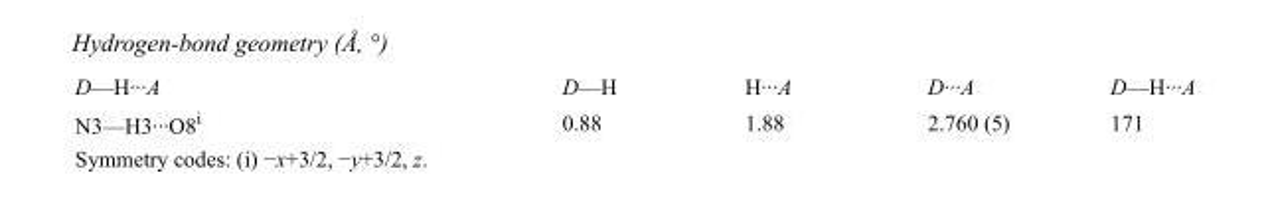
<table><tbody><tr><td>D—H···A</td><td>D—H</td><td>H···A</td><td>D···A</td><td>D—H···A</td></tr><tr><td>N3—H3···O8<sup>i</sup></td><td>0.88</td><td>1.88</td><td>2.760 (5)</td><td>171</td></tr></tbody></table>